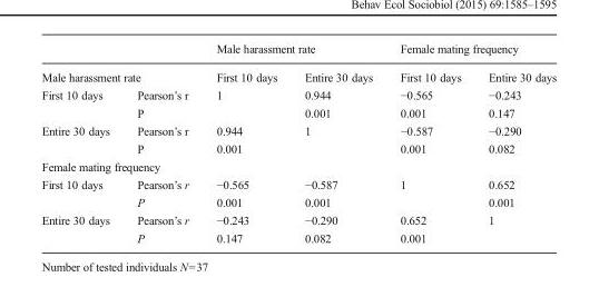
<table><thead><tr><td></td><td></td><td colspan="2">Male harassment rate</td><td colspan="2">Female mating frequency</td></tr><tr><td colspan="2">Male harassment rate</td><td>First 10 days</td><td>Entire 30 days</td><td>First 10 days</td><td>Entire 30 days</td></tr></thead><tbody><tr><td rowspan="2">First 10 days</td><td>Pearson’s r</td><td>1</td><td>0.944</td><td>−0.565</td><td>−0.243</td></tr><tr><td>P</td><td></td><td>0.001</td><td>0.001</td><td>0.147</td></tr><tr><td rowspan="2">Entire 30 days</td><td>Pearson’s r</td><td>0.944</td><td>1</td><td>−0.587</td><td>−0.290</td></tr><tr><td>P</td><td>0.001</td><td></td><td>0.001</td><td>0.082</td></tr><tr><td colspan="6">Female mating frequency</td></tr><tr><td rowspan="2">First 10 days</td><td>Pearson’s r</td><td>−0.565</td><td>−0.587</td><td>1</td><td>0.652</td></tr><tr><td>P</td><td>0.001</td><td>0.001</td><td></td><td>0.001</td></tr><tr><td rowspan="2">Entire 30 days</td><td>Pearson’s r</td><td>−0.243</td><td>−0.290</td><td>0.652</td><td>1</td></tr><tr><td>P</td><td>0.147</td><td>0.082</td><td>0.001</td><td></td></tr></tbody></table>